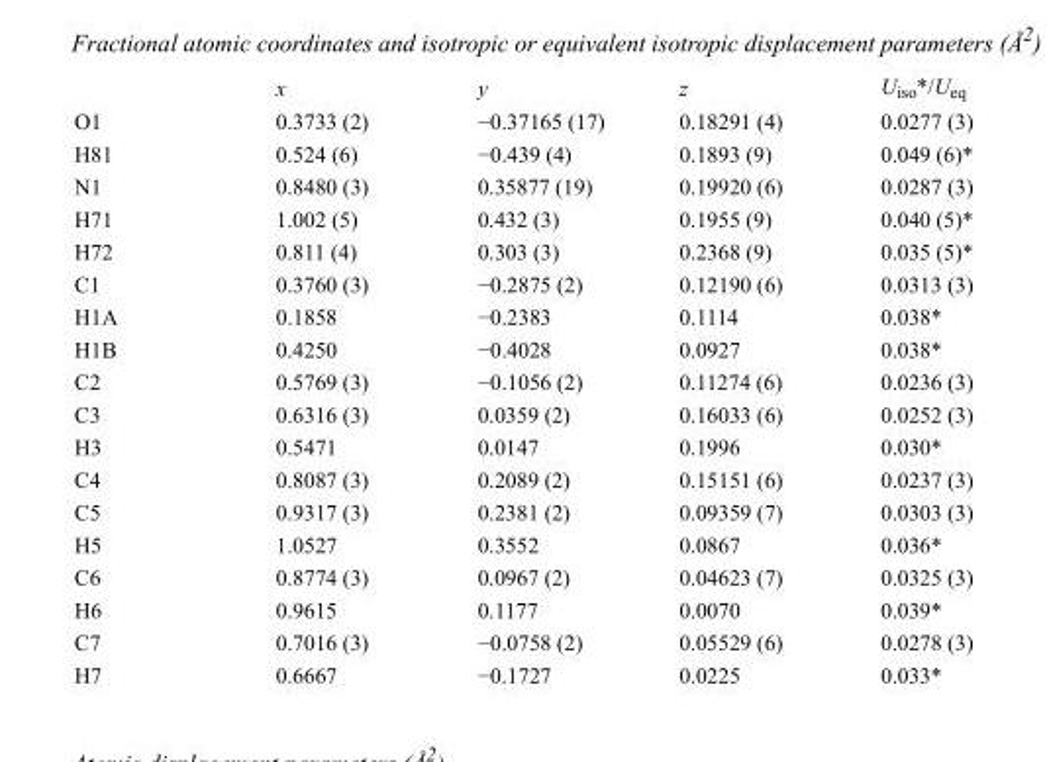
<table><thead><tr><td></td><td>x</td><td>y</td><td>z</td><td>U<sub>iso</sub>*/U<sub>eq</sub></td></tr></thead><tbody><tr><td>O1</td><td>0.3733 (2)</td><td>−0.37165 (17)</td><td>0.18291 (4)</td><td>0.0277 (3)</td></tr><tr><td>H81</td><td>0.524 (6)</td><td>−0.439 (4)</td><td>0.1893 (9)</td><td>0.049 (6)*</td></tr><tr><td>N1</td><td>0.8480 (3)</td><td>0.35877 (19)</td><td>0.19920 (6)</td><td>0.0287 (3)</td></tr><tr><td>H71</td><td>1.002 (5)</td><td>0.432 (3)</td><td>0.1955 (9)</td><td>0.040 (5)*</td></tr><tr><td>H72</td><td>0.811 (4)</td><td>0.303 (3)</td><td>0.2368 (9)</td><td>0.035 (5)*</td></tr><tr><td>C1</td><td>0.3760 (3)</td><td>−0.2875 (2)</td><td>0.12190 (6)</td><td>0.0313 (3)</td></tr><tr><td>H1A</td><td>0.1858</td><td>−0.2383</td><td>0.1114</td><td>0.038*</td></tr><tr><td>H1B</td><td>0.4250</td><td>−0.4028</td><td>0.0927</td><td>0.038*</td></tr><tr><td>C2</td><td>0.5769 (3)</td><td>−0.1056 (2)</td><td>0.11274 (6)</td><td>0.0236 (3)</td></tr><tr><td>C3</td><td>0.6316 (3)</td><td>0.0359 (2)</td><td>0.16033 (6)</td><td>0.0252 (3)</td></tr><tr><td>H3</td><td>0.5471</td><td>0.0147</td><td>0.1996</td><td>0.030*</td></tr><tr><td>C4</td><td>0.8087 (3)</td><td>0.2089 (2)</td><td>0.15151 (6)</td><td>0.0237 (3)</td></tr><tr><td>C5</td><td>0.9317 (3)</td><td>0.2381 (2)</td><td>0.09359 (7)</td><td>0.0303 (3)</td></tr><tr><td>H5</td><td>1.0527</td><td>0.3552</td><td>0.0867</td><td>0.036*</td></tr><tr><td>C6</td><td>0.8774 (3)</td><td>0.0967 (2)</td><td>0.04623 (7)</td><td>0.0325 (3)</td></tr><tr><td>H6</td><td>0.9615</td><td>0.1177</td><td>0.0070</td><td>0.039*</td></tr><tr><td>C7</td><td>0.7016 (3)</td><td>−0.0758 (2)</td><td>0.05529 (6)</td><td>0.0278 (3)</td></tr><tr><td>H7</td><td>0.6667</td><td>−0.1727</td><td>0.0225</td><td>0.033*</td></tr></tbody></table>